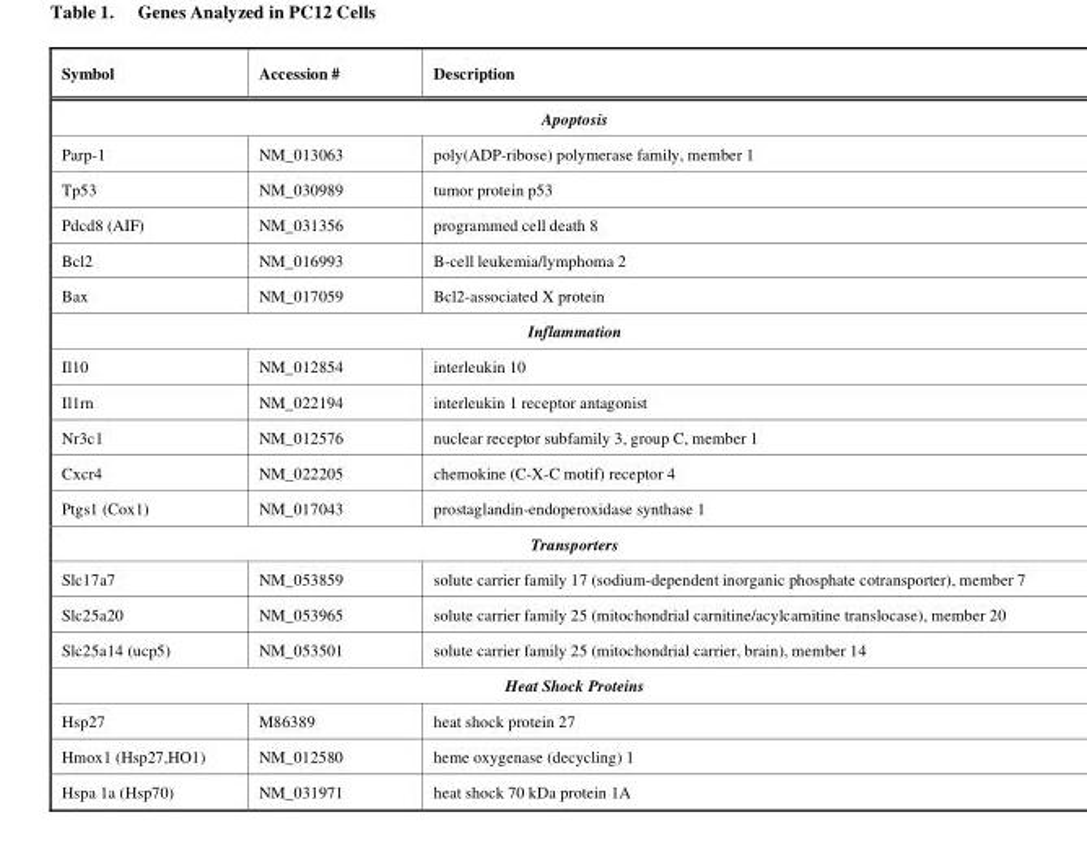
<table><thead><tr><td>Symbol</td><td>Accession #</td><td>Description</td></tr></thead><tbody><tr><td colspan="3">Apoptosis</td></tr><tr><td>Parp-1</td><td>NM_013063</td><td>poly(ADP-ribose) polymerase family, member 1</td></tr><tr><td>Tp53</td><td>NM_030989</td><td>tumor protein p53</td></tr><tr><td>Pdcd8 (AIF)</td><td>NM_031356</td><td>programmed cell death 8</td></tr><tr><td>Bcl2</td><td>NM_016993</td><td>B-cell leukemia/lymphoma 2</td></tr><tr><td>Bax</td><td>NM_017059</td><td>Bcl2-associated X protein</td></tr><tr><td colspan="3">Inflammation</td></tr><tr><td>Il10</td><td>NM_012854</td><td>interleukin 10</td></tr><tr><td>Il1rn</td><td>NM_022194</td><td>interleukin 1 receptor antagonist</td></tr><tr><td>Nr3c1</td><td>NM_012576</td><td>nuclear receptor subfamily 3, group C, member 1</td></tr><tr><td>Cxcr4</td><td>NM_022205</td><td>chemokine (C-X-C motif) receptor 4</td></tr><tr><td>Ptgs1 (Cox1)</td><td>NM_017043</td><td>prostaglandin-endoperoxidase synthase 1</td></tr><tr><td colspan="3">Transporters</td></tr><tr><td>Slc17a7</td><td>NM_053859</td><td>solute carrier family 17 (sodium-dependent inorganic phosphate cotransporter), member 7</td></tr><tr><td>Slc25a20</td><td>NM_053965</td><td>solute carrier family 25 (mitochondrial carnitine/acylcarnitine translocase), member 20</td></tr><tr><td>Slc25a14 (ucp5)</td><td>NM_053501</td><td>solute carrier family 25 (mitochondrial carrier, brain), member 14</td></tr><tr><td colspan="3">Heat Shock Proteins</td></tr><tr><td>Hsp27</td><td>M86389</td><td>heat shock protein 27</td></tr><tr><td>Hmox1 (Hsp27,HO1)</td><td>NM_012580</td><td>heme oxygenase (decycling) 1</td></tr><tr><td>Hspa 1a (Hsp70)</td><td>NM_031971</td><td>heat shock 70 kDa protein 1A</td></tr></tbody></table>